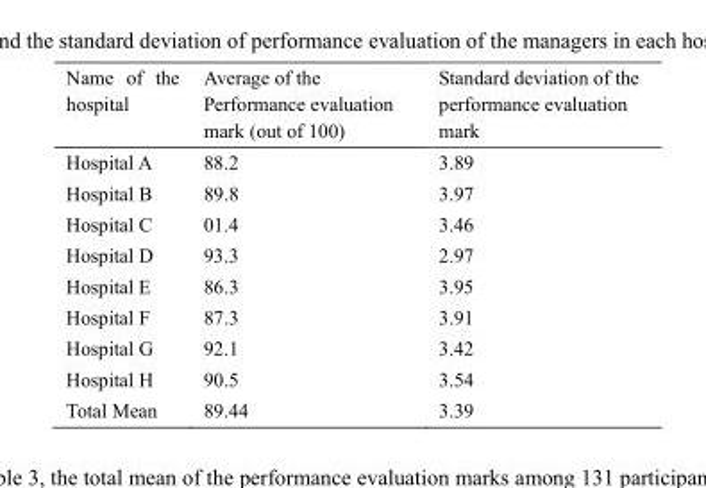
<table><thead><tr><td>Name of the hospital</td><td>Average of the Performance evaluation mark (out of 100)</td><td>Standard deviation of the performance evaluation mark</td></tr></thead><tbody><tr><td>Hospital A</td><td>88.2</td><td>3.89</td></tr><tr><td>Hospital B</td><td>89.8</td><td>3.97</td></tr><tr><td>Hospital C</td><td>01.4</td><td>3.46</td></tr><tr><td>Hospital D</td><td>93.3</td><td>2.97</td></tr><tr><td>Hospital E</td><td>86.3</td><td>3.95</td></tr><tr><td>Hospital F</td><td>87.3</td><td>3.91</td></tr><tr><td>Hospital G</td><td>92.1</td><td>3.42</td></tr><tr><td>Hospital H</td><td>90.5</td><td>3.54</td></tr><tr><td>Total Mean</td><td>89.44</td><td>3.39</td></tr></tbody></table>